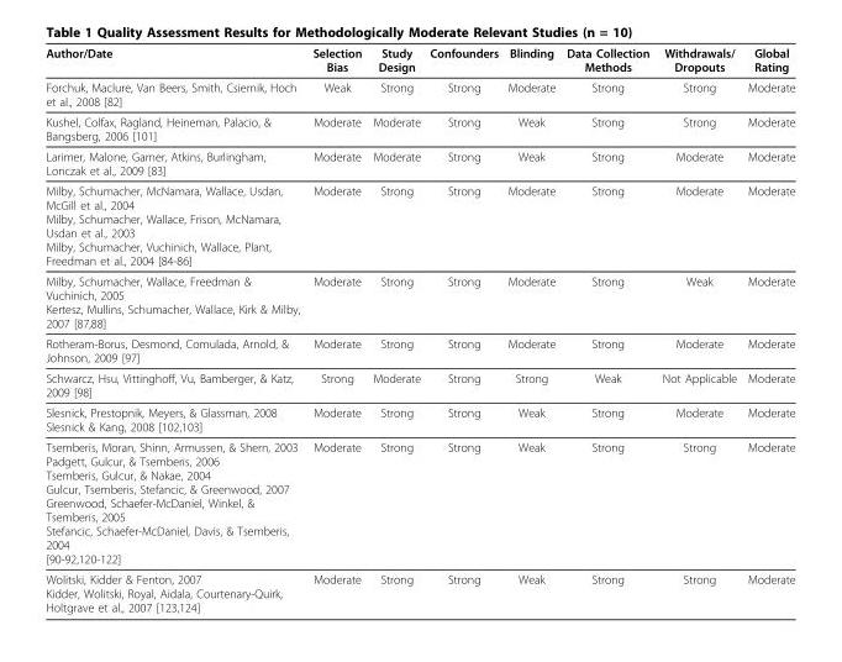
<table><thead><tr><td>Author/Date</td><td>Selection Bias</td><td>Study Design</td><td>Confounders</td><td>Blinding</td><td>Data Collection Methods</td><td>Withdrawals/ Dropouts</td><td>Global Rating</td></tr></thead><tbody><tr><td>Forchuk, Maclure, Van Beers, Smith, Csiernik, Hoch et al., 2008 [82]</td><td>Weak</td><td>Strong</td><td>Strong</td><td>Moderate</td><td>Strong</td><td>Strong</td><td>Moderate</td></tr><tr><td>Kushel, Colfax, Ragland, Heineman, Palacio, &amp; Bangsberg, 2006 [101]</td><td>Moderate</td><td>Moderate</td><td>Strong</td><td>Weak</td><td>Strong</td><td>Strong</td><td>Moderate</td></tr><tr><td>Larimer, Malone, Garner, Atkins, Burlingham, Lonczak et al., 2009 [83]</td><td>Moderate</td><td>Moderate</td><td>Strong</td><td>Weak</td><td>Strong</td><td>Moderate</td><td>Moderate</td></tr><tr><td>Milby, Schumacher, McNamara, Wallace, Usdan, McGill et al., 2004 Milby, Schumacher, Wallace, Frison, McNamara, Usdan et al., 2003 Milby, Schumacher, Vuchinich, Wallace, Plant, Freedman et al., 2004 [84-86]</td><td>Moderate</td><td>Strong</td><td>Strong</td><td>Moderate</td><td>Strong</td><td>Moderate</td><td>Moderate</td></tr><tr><td>Milby, Schumacher, Wallace, Freedman &amp; Vuchinich, 2005 Kertesz, Mullins, Schumacher, Wallace, Kirk &amp; Milby, 2007 [87,88]</td><td>Moderate</td><td>Strong</td><td>Strong</td><td>Moderate</td><td>Strong</td><td>Weak</td><td>Moderate</td></tr><tr><td>Rotheram-Borus, Desmond, Comulada, Arnold, &amp; Johnson, 2009 [97]</td><td>Moderate</td><td>Strong</td><td>Strong</td><td>Moderate</td><td>Strong</td><td>Moderate</td><td>Moderate</td></tr><tr><td>Schwarcz, Hsu, Vittinghoff, Vu, Bamberger, &amp; Katz, 2009 [98]</td><td>Strong</td><td>Moderate</td><td>Strong</td><td>Strong</td><td>Weak</td><td>Not Applicable</td><td>Moderate</td></tr><tr><td>Slesnick, Prestopnik, Meyers, &amp; Glassman, 2008 Slesnick &amp; Kang, 2008 [102,103]</td><td>Moderate</td><td>Strong</td><td>Strong</td><td>Weak</td><td>Strong</td><td>Moderate</td><td>Moderate</td></tr><tr><td>Tsemberis, Moran, Shinn, Armussen, &amp; Shern, 2003 Padgett, Gulcur, &amp; Tsemberis, 2006 Tsemberis, Gulcur, &amp; Nakae, 2004 Gulcur, Tsemberis, Stefancic, &amp; Greenwood, 2007 Greenwood, Schaefer-McDaniel, Winkel, &amp; Tsemberis, 2005 Stefancic, Schaefer-McDaniel, Davis, &amp; Tsemberis, 2004 [90-92,120-122]</td><td>Moderate</td><td>Strong</td><td>Strong</td><td>Weak</td><td>Strong</td><td>Strong</td><td>Moderate</td></tr><tr><td>Wolitski, Kidder &amp; Fenton, 2007 Kidder, Wolitski, Royal, Aidala, Courtenary-Quirk, Holtgrave et al., 2007 [123,124]</td><td>Moderate</td><td>Strong</td><td>Strong</td><td>Weak</td><td>Strong</td><td>Strong</td><td>Moderate</td></tr></tbody></table>